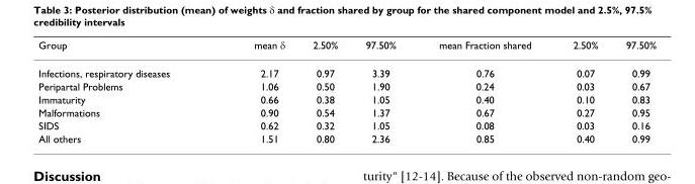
<table><thead><tr><td>Group</td><td>mean δ</td><td>2.50%</td><td>97.50%</td><td>mean Fraction shared</td><td>2.50%</td><td>97.50%</td></tr></thead><tbody><tr><td>Infections, respiratory diseases</td><td>2.17</td><td>0.97</td><td>3.39</td><td>0.76</td><td>0.07</td><td>0.99</td></tr><tr><td>Peripartal Problems</td><td>1.06</td><td>0.50</td><td>1.90</td><td>0.24</td><td>0.03</td><td>0.67</td></tr><tr><td>Immaturity</td><td>0.66</td><td>0.38</td><td>1.05</td><td>0.40</td><td>0.10</td><td>0.83</td></tr><tr><td>Malformations</td><td>0.90</td><td>0.54</td><td>1.37</td><td>0.67</td><td>0.27</td><td>0.95</td></tr><tr><td>SIDS</td><td>0.62</td><td>0.32</td><td>1.05</td><td>0.08</td><td>0.03</td><td>0.16</td></tr><tr><td>All others</td><td>1.51</td><td>0.80</td><td>2.36</td><td>0.85</td><td>0.40</td><td>0.99</td></tr></tbody></table>